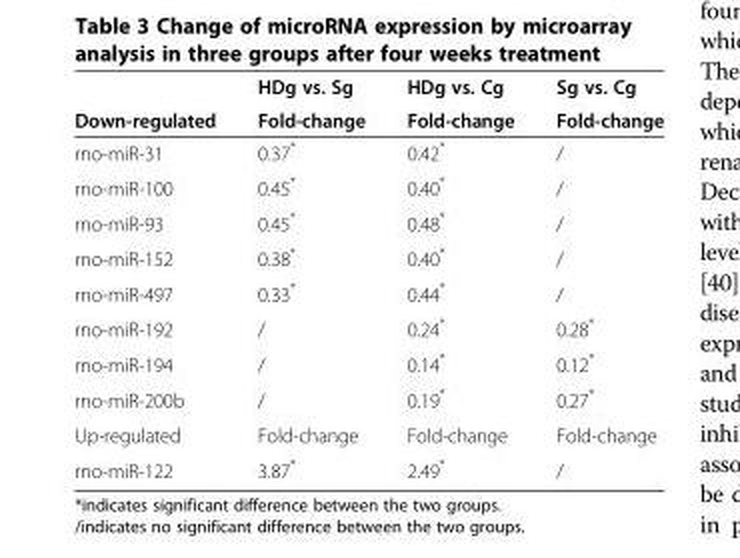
<table><thead><tr><td rowspan="2">Down-regulated</td><td rowspan="2">HDg vs. Sg Fold-change</td><td rowspan="2">HDg vs. Cg Fold-change</td><td rowspan="2">Sg vs. Cg Fold-change</td></tr><tr></tr></thead><tbody><tr><td>rno-miR-31</td><td>0.37*</td><td>0.42*</td><td>/</td></tr><tr><td>rno-miR-100</td><td>0.45*</td><td>0.40*</td><td>/</td></tr><tr><td>rno-miR-93</td><td>0.45*</td><td>0.48*</td><td>/</td></tr><tr><td>rno-miR-152</td><td>0.38*</td><td>0.40*</td><td>/</td></tr><tr><td>rno-miR-497</td><td>0.33*</td><td>0.44*</td><td>/</td></tr><tr><td>rno-miR-192</td><td>/</td><td>0.24*</td><td>0.28*</td></tr><tr><td>rno-miR-194</td><td>/</td><td>0.14*</td><td>0.12*</td></tr><tr><td>rno-miR-200b</td><td>/</td><td>0.19*</td><td>0.27*</td></tr><tr><td>Up-regulated</td><td>Fold-change</td><td>Fold-change</td><td>Fold-change</td></tr><tr><td>rno-miR-122</td><td>3.87*</td><td>2.49*</td><td>/</td></tr></tbody></table>